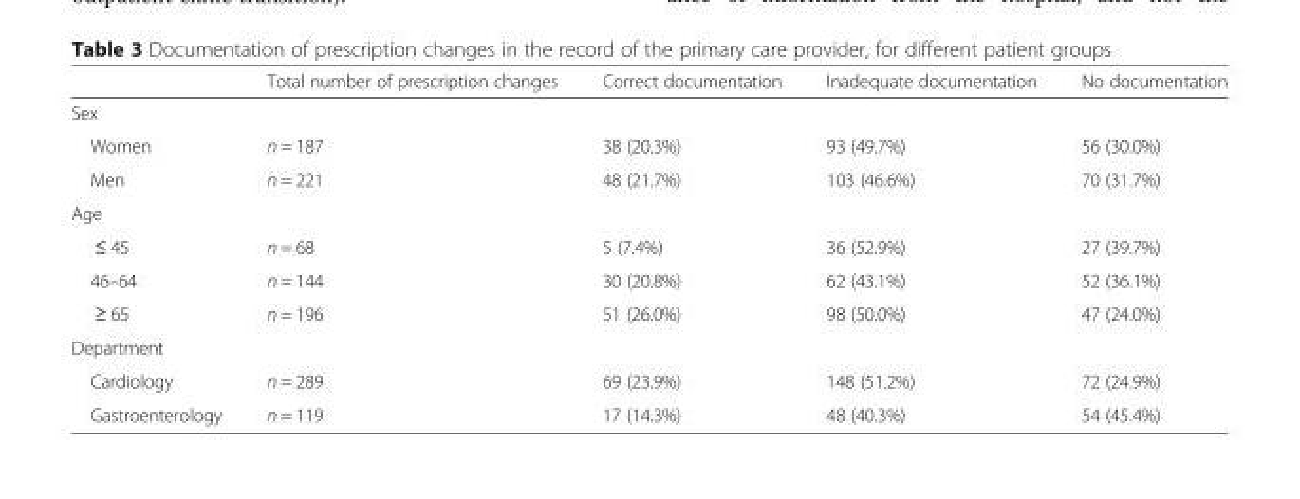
<table><thead><tr><td></td><td>Total number of prescription changes</td><td>Correct documentation</td><td>Inadequate documentation</td><td>No documentation</td></tr></thead><tbody><tr><td colspan="5">Sex</td></tr><tr><td>Women</td><td>n = 187</td><td>38 (20.3%)</td><td>93 (49.7%)</td><td>56 (30.0%)</td></tr><tr><td>Men</td><td>n = 221</td><td>48 (21.7%)</td><td>103 (46.6%)</td><td>70 (31.7%)</td></tr><tr><td colspan="5">Age</td></tr><tr><td>≤ 45</td><td>n = 68</td><td>5 (7.4%)</td><td>36 (52.9%)</td><td>27 (39.7%)</td></tr><tr><td>46–64</td><td>n = 144</td><td>30 (20.8%)</td><td>62 (43.1%)</td><td>52 (36.1%)</td></tr><tr><td>≥ 65</td><td>n = 196</td><td>51 (26.0%)</td><td>98 (50.0%)</td><td>47 (24.0%)</td></tr><tr><td colspan="5">Department</td></tr><tr><td>Cardiology</td><td>n = 289</td><td>69 (23.9%)</td><td>148 (51.2%)</td><td>72 (24.9%)</td></tr><tr><td>Gastroenterology</td><td>n = 119</td><td>17 (14.3%)</td><td>48 (40.3%)</td><td>54 (45.4%)</td></tr></tbody></table>